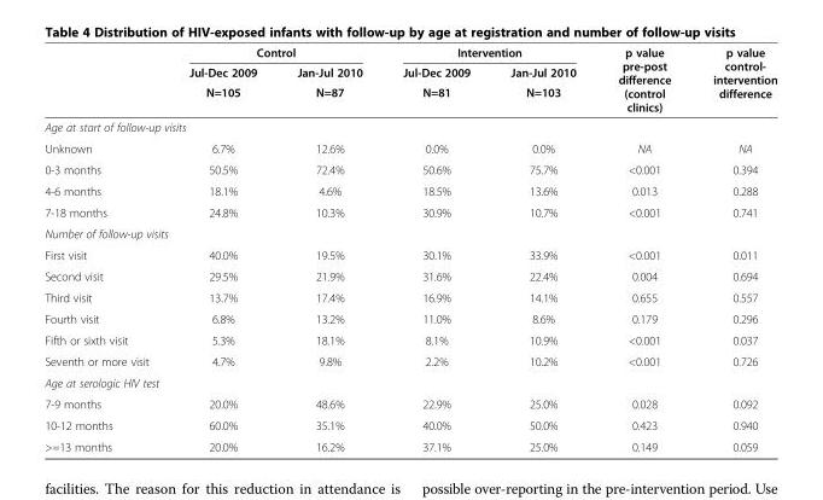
<table><thead><tr><td rowspan="3"></td><td colspan="2">Control</td><td colspan="2">Intervention</td><td rowspan="3">p value pre-post difference (control clinics)</td><td rowspan="3">p value control- intervention difference</td></tr><tr><td rowspan="2">Jul-Dec 2009 N=105</td><td rowspan="2">Jan-Jul 2010 N=87</td><td rowspan="2">Jul-Dec 2009 N=81</td><td rowspan="2">Jan-Jul 2010 N=103</td></tr><tr></tr></thead><tbody><tr><td colspan="7">Age at start of follow-up visits</td></tr><tr><td>Unknown</td><td>6.7%</td><td>12.6%</td><td>0.0%</td><td>0.0%</td><td>NA</td><td>NA</td></tr><tr><td>0-3 months</td><td>50.5%</td><td>72.4%</td><td>50.6%</td><td>75.7%</td><td>&lt;0.001</td><td>0.394</td></tr><tr><td>4-6 months</td><td>18.1%</td><td>4.6%</td><td>18.5%</td><td>13.6%</td><td>0.013</td><td>0.288</td></tr><tr><td>7-18 months</td><td>24.8%</td><td>10.3%</td><td>30.9%</td><td>10.7%</td><td>&lt;0.001</td><td>0.741</td></tr><tr><td colspan="7">Number of follow-up visits</td></tr><tr><td>First visit</td><td>40.0%</td><td>19.5%</td><td>30.1%</td><td>33.9%</td><td>&lt;0.001</td><td>0.011</td></tr><tr><td>Second visit</td><td>29.5%</td><td>21.9%</td><td>31.6%</td><td>22.4%</td><td>0.004</td><td>0.694</td></tr><tr><td>Third visit</td><td>13.7%</td><td>17.4%</td><td>16.9%</td><td>14.1%</td><td>0.655</td><td>0.557</td></tr><tr><td>Fourth visit</td><td>6.8%</td><td>13.2%</td><td>11.0%</td><td>8.6%</td><td>0.179</td><td>0.296</td></tr><tr><td>Fifth or sixth visit</td><td>5.3%</td><td>18.1%</td><td>8.1%</td><td>10.9%</td><td>&lt;0.001</td><td>0.037</td></tr><tr><td>Seventh or more visit</td><td>4.7%</td><td>9.8%</td><td>2.2%</td><td>10.2%</td><td>&lt;0.001</td><td>0.726</td></tr><tr><td colspan="7">Age at serologic HIV test</td></tr><tr><td>7-9 months</td><td>20.0%</td><td>48.6%</td><td>22.9%</td><td>25.0%</td><td>0.028</td><td>0.092</td></tr><tr><td>10-12 months</td><td>60.0%</td><td>35.1%</td><td>40.0%</td><td>50.0%</td><td>0.423</td><td>0.940</td></tr><tr><td>&gt;=13 months</td><td>20.0%</td><td>16.2%</td><td>37.1%</td><td>25.0%</td><td>0.149</td><td>0.059</td></tr></tbody></table>